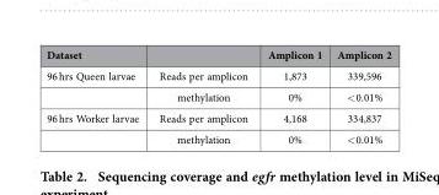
<table><thead><tr><td>Dataset</td><td></td><td>Amplicon 1</td><td>Amplicon 2</td></tr></thead><tbody><tr><td rowspan="2">96 hrs Queen larvae</td><td>Reads per amplicon</td><td>1,873</td><td>339,596</td></tr><tr><td>methylation</td><td>0%</td><td>&lt; 0.01%</td></tr><tr><td rowspan="2">96 hrs Worker larvae</td><td>Reads per amplicon</td><td>4,168</td><td>334,837</td></tr><tr><td>methylation</td><td>0%</td><td>&lt; 0.01%</td></tr></tbody></table>